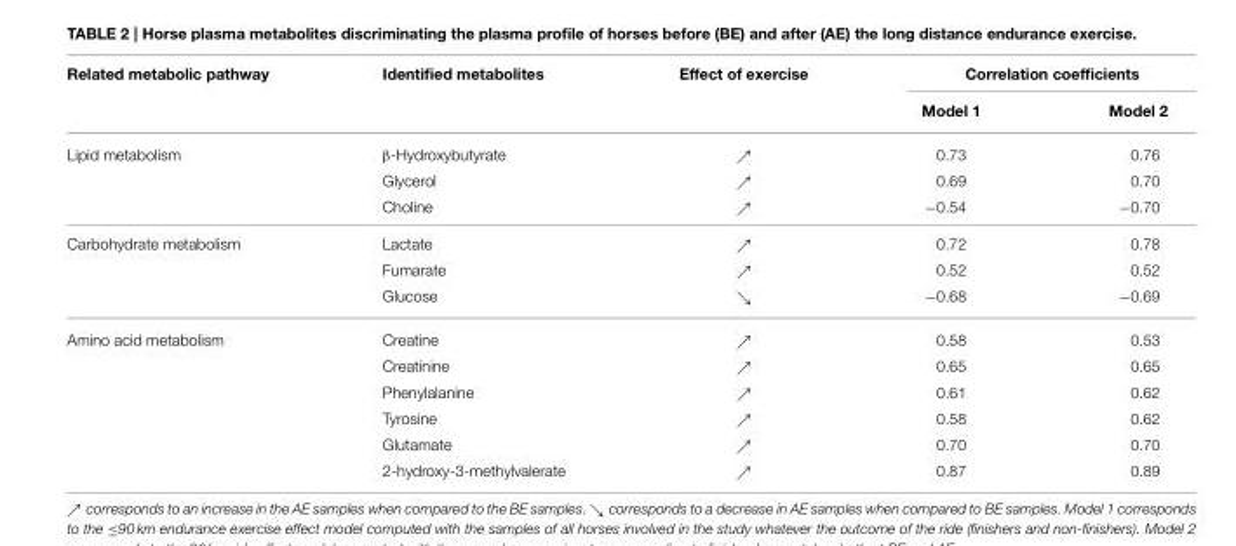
<table><thead><tr><td rowspan="2">Related metabolic pathway</td><td rowspan="2">Identified metabolites</td><td rowspan="2">Effect of exercise</td><td colspan="2">Correlation coefficients</td></tr><tr><td>Model 1</td><td>Model 2</td></tr></thead><tbody><tr><td rowspan="3">Lipid metabolism</td><td>β-Hydroxybutyrate</td><td>ր</td><td>0.73</td><td>0.76</td></tr><tr><td>Glycerol</td><td>ր</td><td>0.69</td><td>0.70</td></tr><tr><td>Choline</td><td>ր</td><td>−0.54</td><td>−0.70</td></tr><tr><td rowspan="3">Carbohydrate metabolism</td><td>Lactate</td><td>ր</td><td>0.72</td><td>0.78</td></tr><tr><td>Fumarate</td><td>ր</td><td>0.52</td><td>0.52</td></tr><tr><td>Glucose</td><td>ց</td><td>−0.68</td><td>−0.69</td></tr><tr><td rowspan="6">Amino acid metabolism</td><td>Creatine</td><td>ր</td><td>0.58</td><td>0.53</td></tr><tr><td>Creatinine</td><td>ր</td><td>0.65</td><td>0.65</td></tr><tr><td>Phenylalanine</td><td>ր</td><td>0.61</td><td>0.62</td></tr><tr><td>Tyrosine</td><td>ր</td><td>0.58</td><td>0.62</td></tr><tr><td>Glutamate</td><td>ր</td><td>0.70</td><td>0.70</td></tr><tr><td>2-hydroxy-3-methylvalerate</td><td>ր</td><td>0.87</td><td>0.89</td></tr></tbody></table>